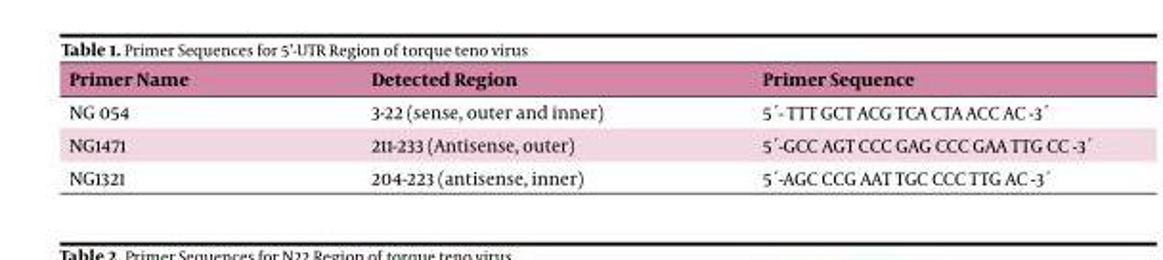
<table><thead><tr><td>Primer Name</td><td>Detected Region</td><td>Primer Sequence</td></tr></thead><tbody><tr><td>NG 054</td><td>3-22 (sense, outer and inner)</td><td>5΄- TTT GCT ACG TCA CTA ACC AC -3΄</td></tr><tr><td>NG1471</td><td>211-233 (Antisense, outer)</td><td>5΄-GCC AGT CCC GAG CCC GAA TTG CC -3΄</td></tr><tr><td>NG1321</td><td>204-223 (antisense, inner)</td><td>5΄-AGC CCG AAT TGC CCC TTG AC -3΄</td></tr></tbody></table>